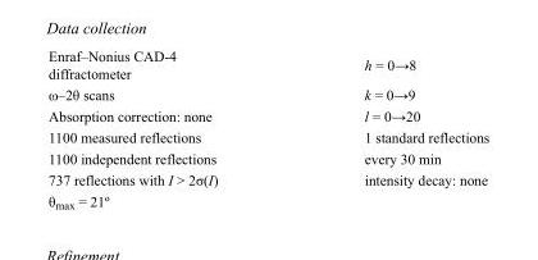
<table><tbody><tr><td>Enraf–Nonius CAD-4 diffractometer</td><td>h = 0→8</td></tr><tr><td>ω–2θ scans</td><td>k = 0→9</td></tr><tr><td>Absorption correction: none</td><td>l = 0→20</td></tr><tr><td>1100 measured reflections</td><td>1 standard reflections</td></tr><tr><td>1100 independent reflections</td><td>every 30 min</td></tr><tr><td>737 reflections with I &gt; 2σ(I)</td><td>intensity decay: none</td></tr><tr><td>θ<sub>max</sub> = 21º</td><td></td></tr></tbody></table>